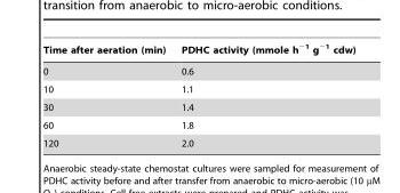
<table><thead><tr><td>Time after aeration (min)</td><td>PDHC activity (mmole h<sup>−1</sup> g<sup>−1</sup> cdw)</td></tr></thead><tbody><tr><td>0</td><td>0.6</td></tr><tr><td>10</td><td>1.1</td></tr><tr><td>30</td><td>1.4</td></tr><tr><td>60</td><td>1.8</td></tr><tr><td>120</td><td>2.0</td></tr></tbody></table>